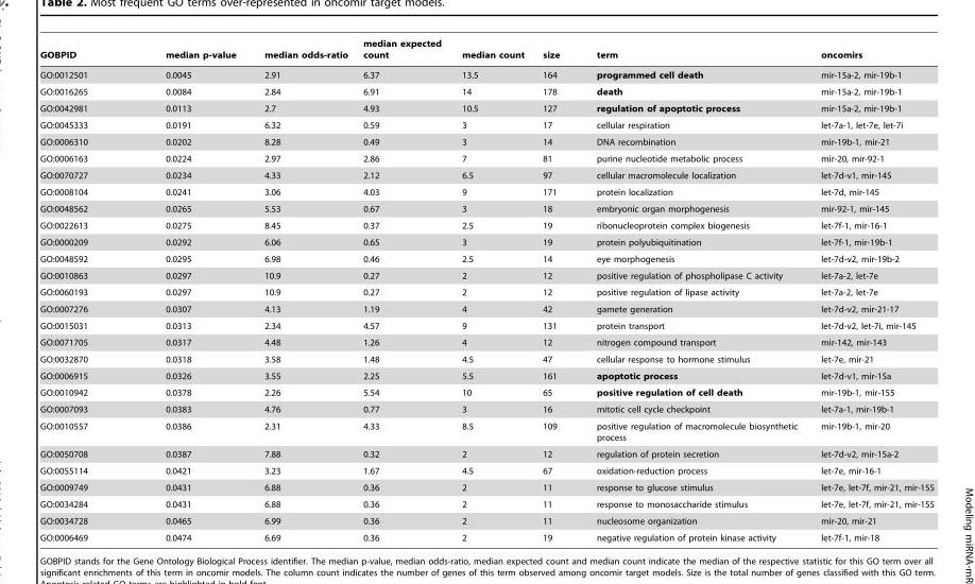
<table><thead><tr><td>GOBPID</td><td>median p-value</td><td>median odds-ratio</td><td>median expected count</td><td>median count</td><td>size</td><td>term</td><td>oncomirs</td></tr></thead><tbody><tr><td>GO:0012501</td><td>0.0045</td><td>2.91</td><td>6.37</td><td>13.5</td><td>164</td><td>programmed cell death</td><td>mir-15a-2, mir-19b-1</td></tr><tr><td>GO:0016265</td><td>0.0084</td><td>2.84</td><td>6.91</td><td>14</td><td>178</td><td>death</td><td>mir-15a-2, mir-19b-1</td></tr><tr><td>GO:0042981</td><td>0.0113</td><td>2.7</td><td>4.93</td><td>10.5</td><td>127</td><td>regulation of apoptotic process</td><td>mir-15a-2, mir-19b-1</td></tr><tr><td>GO:0045333</td><td>0.0191</td><td>6.32</td><td>0.59</td><td>3</td><td>17</td><td>cellular respiration</td><td>let-7a-1, let-7e, let-7i</td></tr><tr><td>GO:0006310</td><td>0.0202</td><td>8.28</td><td>0.49</td><td>3</td><td>14</td><td>DNA recombination</td><td>mir-19b-1, mir-21</td></tr><tr><td>GO:0006163</td><td>0.0224</td><td>2.97</td><td>2.86</td><td>7</td><td>81</td><td>purine nucleotide metabolic process</td><td>mir-20, mir-92-1</td></tr><tr><td>GO:0070727</td><td>0.0234</td><td>4.33</td><td>2.12</td><td>6.5</td><td>97</td><td>cellular macromolecule localization</td><td>let-7d-v1, mir-145</td></tr><tr><td>GO:0008104</td><td>0.0241</td><td>3.06</td><td>4.03</td><td>9</td><td>171</td><td>protein localization</td><td>let-7d, mir-145</td></tr><tr><td>GO:0048562</td><td>0.0265</td><td>5.53</td><td>0.67</td><td>3</td><td>18</td><td>embryonic organ morphogenesis</td><td>mir-92-1, mir-145</td></tr><tr><td>GO:0022613</td><td>0.0275</td><td>8.45</td><td>0.37</td><td>2.5</td><td>19</td><td>ribonucleoprotein complex biogenesis</td><td>let-7f-1, mir-16-1</td></tr><tr><td>GO:0000209</td><td>0.0292</td><td>6.06</td><td>0.65</td><td>3</td><td>19</td><td>protein polyubiquitination</td><td>let-7f-1, mir-19b-1</td></tr><tr><td>GO:0048592</td><td>0.0295</td><td>6.98</td><td>0.46</td><td>2.5</td><td>14</td><td>eye morphogenesis</td><td>let-7d-v2, mir-19b-2</td></tr><tr><td>GO:0010863</td><td>0.0297</td><td>10.9</td><td>0.27</td><td>2</td><td>12</td><td>positive regulation of phospholipase C activity</td><td>let-7a-2, let-7e</td></tr><tr><td>GO:0060193</td><td>0.0297</td><td>10.9</td><td>0.27</td><td>2</td><td>12</td><td>positive regulation of lipase activity</td><td>let-7a-2, let-7e</td></tr><tr><td>GO:0007276</td><td>0.0307</td><td>4.13</td><td>1.19</td><td>4</td><td>42</td><td>gamete generation</td><td>let-7d-v2, mir-21-17</td></tr><tr><td>GO:0015031</td><td>0.0313</td><td>2.34</td><td>4.57</td><td>9</td><td>131</td><td>protein transport</td><td>let-7d-v2, let-7i, mir-145</td></tr><tr><td>GO:0071705</td><td>0.0317</td><td>4.48</td><td>1.26</td><td>4</td><td>12</td><td>nitrogen compound transport</td><td>mir-142, mir-143</td></tr><tr><td>GO:0032870</td><td>0.0318</td><td>3.58</td><td>1.48</td><td>4.5</td><td>47</td><td>cellular response to hormone stimulus</td><td>let-7e, mir-21</td></tr><tr><td>GO:0006915</td><td>0.0326</td><td>3.55</td><td>2.25</td><td>5.5</td><td>161</td><td>apoptotic process</td><td>let-7d-v1, mir-15a</td></tr><tr><td>GO:0010942</td><td>0.0378</td><td>2.26</td><td>5.54</td><td>10</td><td>65</td><td>positive regulation of cell death</td><td>mir-19b-1, mir-155</td></tr><tr><td>GO:0007093</td><td>0.0383</td><td>4.76</td><td>0.77</td><td>3</td><td>16</td><td>mitotic cell cycle checkpoint</td><td>let-7a-1, mir-19b-1</td></tr><tr><td>GO:0010557</td><td>0.0386</td><td>2.31</td><td>4.33</td><td>8.5</td><td>109</td><td>positive regulation of macromolecule biosynthetic process</td><td>mir-19b-1, mir-20</td></tr><tr><td>GO:0050708</td><td>0.0387</td><td>7.88</td><td>0.32</td><td>2</td><td>12</td><td>regulation of protein secretion</td><td>let-7d-v2, mir-15a-2</td></tr><tr><td>GO:0055114</td><td>0.0421</td><td>3.23</td><td>1.67</td><td>4.5</td><td>67</td><td>oxidation-reduction process</td><td>let-7e, mir-16-1</td></tr><tr><td>GO:0009749</td><td>0.0431</td><td>6.88</td><td>0.36</td><td>2</td><td>11</td><td>response to glucose stimulus</td><td>let-7e, let-7f, mir-21, mir-155</td></tr><tr><td>GO:0034284</td><td>0.0431</td><td>6.88</td><td>0.36</td><td>2</td><td>11</td><td>response to monosaccharide stimulus</td><td>let-7e, let-7f, mir-21, mir-155</td></tr><tr><td>GO:0034728</td><td>0.0465</td><td>6.99</td><td>0.36</td><td>2</td><td>11</td><td>nucleosome organization</td><td>mir-20, mir-21</td></tr><tr><td>GO:0006469</td><td>0.0474</td><td>6.69</td><td>0.36</td><td>2</td><td>19</td><td>negative regulation of protein kinase activity</td><td>let-7f-1, mir-18</td></tr></tbody></table>